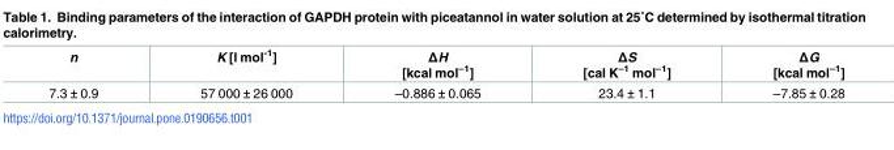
<table><thead><tr><td>n</td><td>K [l mol<sup>-1</sup>]</td><td>ΔH [kcal mol<sup>–1</sup>]</td><td>ΔS [cal K<sup>–1</sup> mol<sup>–1</sup>]</td><td>ΔG [kcal mol<sup>–1</sup>]</td></tr></thead><tbody><tr><td>7.3 ± 0.9</td><td>57 000 ± 26 000</td><td>–0.886 ± 0.065</td><td>23.4 ± 1.1</td><td>–7.85 ± 0.28</td></tr></tbody></table>